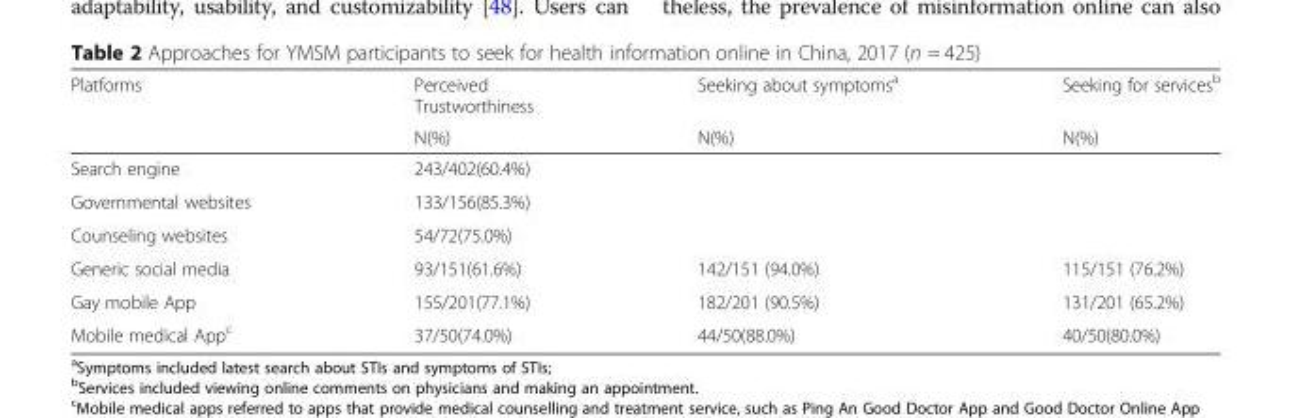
<table><thead><tr><td rowspan="2">Platforms</td><td rowspan="2">Perceived Trustworthiness N(%)</td><td rowspan="2">Seeking about symptoms<sup>a</sup> N(%)</td><td rowspan="2">Seeking for services<sup>b</sup> N(%)</td></tr><tr></tr></thead><tbody><tr><td>Search engine</td><td>243/402(60.4%)</td><td></td><td></td></tr><tr><td>Governmental websites</td><td>133/156(85.3%)</td><td></td><td></td></tr><tr><td>Counseling websites</td><td>54/72(75.0%)</td><td></td><td></td></tr><tr><td>Generic social media</td><td>93/151(61.6%)</td><td>142/151 (94.0%)</td><td>115/151 (76.2%)</td></tr><tr><td>Gay mobile App</td><td>155/201(77.1%)</td><td>182/201 (90.5%)</td><td>131/201 (65.2%)</td></tr><tr><td>Mobile medical App<sup>c</sup></td><td>37/50(74.0%)</td><td>44/50(88.0%)</td><td>40/50(80.0%)</td></tr></tbody></table>